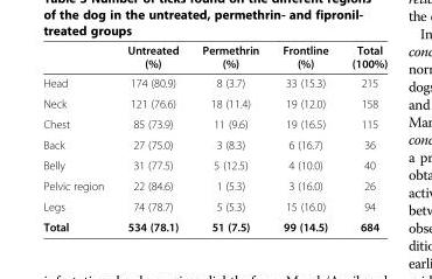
<table><thead><tr><td></td><td>Untreated (%)</td><td>Permethrin (%)</td><td>Frontline (%)</td><td>Total (100%)</td></tr></thead><tbody><tr><td>Head</td><td>174 (80.9)</td><td>8 (3.7)</td><td>33 (15.3)</td><td>215</td></tr><tr><td>Neck</td><td>121 (76.6)</td><td>18 (11.4)</td><td>19 (12.0)</td><td>158</td></tr><tr><td>Chest</td><td>85 (73.9)</td><td>11 (9.6)</td><td>19 (16.5)</td><td>115</td></tr><tr><td>Back</td><td>27 (75.0)</td><td>3 (8.3)</td><td>6 (16.7)</td><td>36</td></tr><tr><td>Belly</td><td>31 (77.5)</td><td>5 (12.5)</td><td>4 (10.0)</td><td>40</td></tr><tr><td>Pelvic region</td><td>22 (84.6)</td><td>1 (5.3)</td><td>3 (16.0)</td><td>26</td></tr><tr><td>Legs</td><td>74 (78.7)</td><td>5 (5.3)</td><td>15 (16.0)</td><td>94</td></tr><tr><td>Total</td><td>534 (78.1)</td><td>51 (7.5)</td><td>99 (14.5)</td><td>684</td></tr></tbody></table>